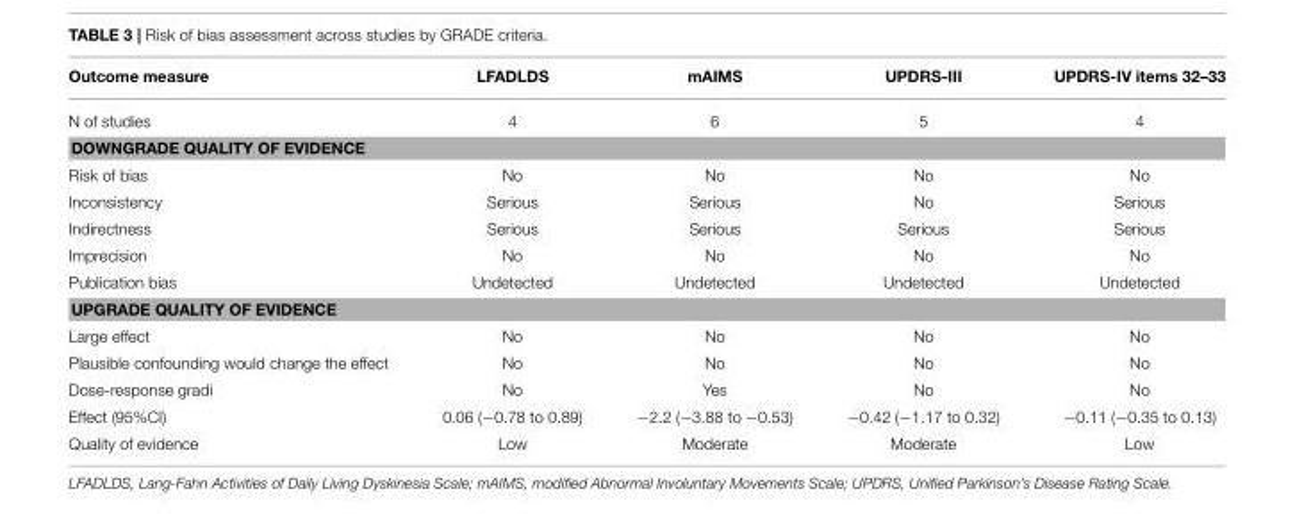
<table><thead><tr><td>Outcome measure</td><td>LFADLDS</td><td>mAIMS</td><td>UPDRS-III</td><td>UPDRS-IV items 32–33</td></tr></thead><tbody><tr><td>N of studies</td><td>4</td><td>6</td><td>5</td><td>4</td></tr><tr><td colspan="5">DOWNGRADE QUALITY OF EVIDENCE</td></tr><tr><td>Risk of bias</td><td>No</td><td>No</td><td>No</td><td>No</td></tr><tr><td>Inconsistency</td><td>Serious</td><td>Serious</td><td>No</td><td>Serious</td></tr><tr><td>Indirectness</td><td>Serious</td><td>Serious</td><td>Serious</td><td>Serious</td></tr><tr><td>Imprecision</td><td>No</td><td>No</td><td>No</td><td>No</td></tr><tr><td>Publication bias</td><td>Undetected</td><td>Undetected</td><td>Undetected</td><td>Undetected</td></tr><tr><td colspan="5">UPGRADE QUALITY OF EVIDENCE</td></tr><tr><td>Large effect</td><td>No</td><td>No</td><td>No</td><td>No</td></tr><tr><td>Plausible confounding would change the effect</td><td>No</td><td>No</td><td>No</td><td>No</td></tr><tr><td>Dose-response gradi</td><td>No</td><td>Yes</td><td>No</td><td>No</td></tr><tr><td>Effect (95%CI)</td><td>0.06 (−0.78 to 0.89)</td><td>−2.2 (−3.88 to −0.53)</td><td>−0.42 (−1.17 to 0.32)</td><td>−0.11 (−0.35 to 0.13)</td></tr><tr><td>Quality of evidence</td><td>Low</td><td>Moderate</td><td>Moderate</td><td>Low</td></tr></tbody></table>